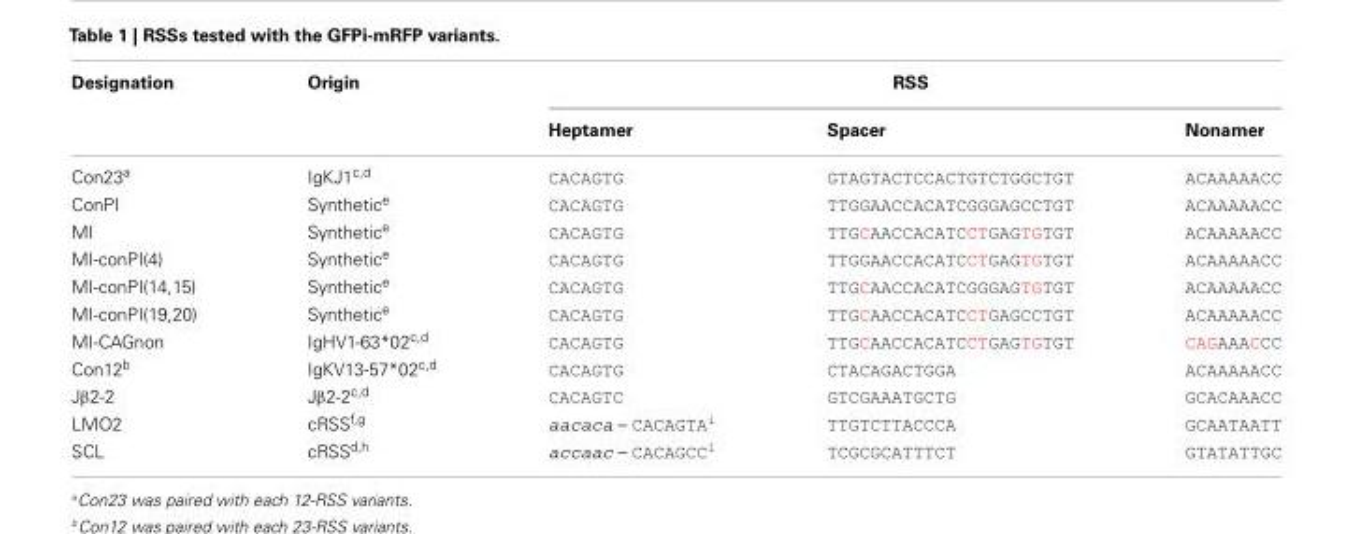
<table><thead><tr><td rowspan="2">Designation</td><td rowspan="2">Origin</td><td colspan="3">RSS</td></tr><tr><td>Heptamer</td><td>Spacer</td><td>Nonamer</td></tr></thead><tbody><tr><td>Con23<sup>a</sup></td><td>IgKJ1<sup>c,d</sup></td><td>CACAGTG</td><td>GTAGTACTCCACTGTCTGGCTGT</td><td>ACAAAAACC</td></tr><tr><td>ConPI</td><td>Synthetic<sup>e</sup></td><td>CACAGTG</td><td>TTGGAACCACATCGGGAGCCTGT</td><td>ACAAAAACC</td></tr><tr><td>MI</td><td>Synthetic<sup>e</sup></td><td>CACAGTG</td><td>TTGCAACCACATCCTGAGTGTGT</td><td>ACAAAAACC</td></tr><tr><td>MI-conPI(4)</td><td>Synthetic<sup>e</sup></td><td>CACAGTG</td><td>TTGGAACCACATCCTGAGTGTGT</td><td>ACAAAAACC</td></tr><tr><td>MI-conPI(14,15)</td><td>Synthetic<sup>e</sup></td><td>CACAGTG</td><td>TTGCAACCACATCGGGAGTGTGT</td><td>ACAAAAACC</td></tr><tr><td>MI-conPI(19,20)</td><td>Synthetic<sup>e</sup></td><td>CACAGTG</td><td>TTGCAACCACATCCTGAGCCTGT</td><td>ACAAAAACC</td></tr><tr><td>MI-CAGnon</td><td>IgHV1-63*02<sup>c,d</sup></td><td>CACAGTG</td><td>TTGCAACCACATCCTGAGTGTGT</td><td>CAGAAACCC</td></tr><tr><td>Con12<sup>b</sup></td><td>IgKV13-57*02<sup>c,d</sup></td><td>CACAGTG</td><td>CTACAGACTGGA</td><td>ACAAAAACC</td></tr><tr><td>Jβ2-2</td><td>Jβ2-2<sup>c,d</sup></td><td>CACAGTC</td><td>GTCGAAATGCTG</td><td>GCACAAACC</td></tr><tr><td>LMO2</td><td>cRSS<sup>f,g</sup></td><td>aacaca – CACAGTA<sup>i</sup></td><td>TTGTCTTACCCA</td><td>GCAATAATT</td></tr><tr><td>SCL</td><td>cRSS<sup>d,h</sup></td><td>accaac – CACAGCC<sup>i</sup></td><td>TCGCGCATTTCT</td><td>GTATATTGC</td></tr></tbody></table>